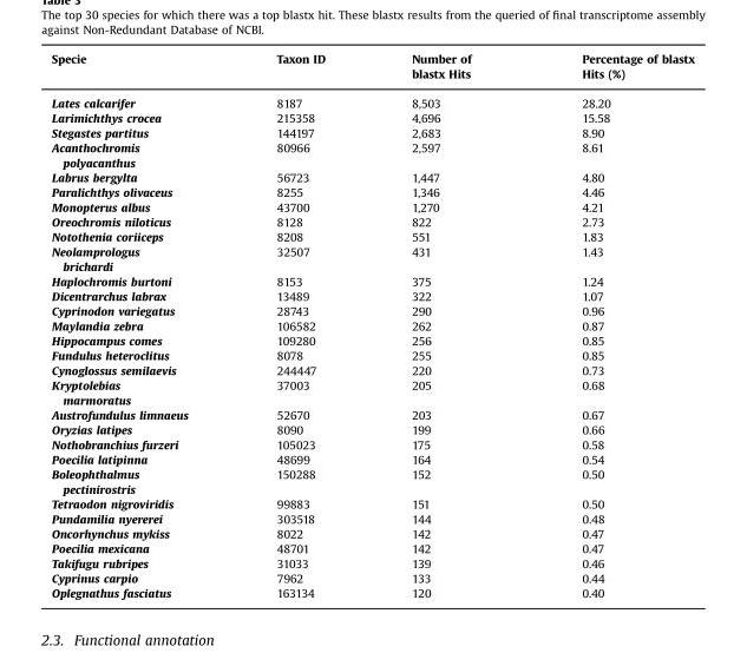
<table><thead><tr><td>Specie</td><td>Taxon ID</td><td>Number of blastx Hits</td><td>Percentage of blastx Hits (%)</td></tr></thead><tbody><tr><td>Lates calcarifer</td><td>8187</td><td>8,503</td><td>28.20</td></tr><tr><td>Larimichthys crocea</td><td>215358</td><td>4,696</td><td>15.58</td></tr><tr><td>Stegastes partitus</td><td>144197</td><td>2,683</td><td>8.90</td></tr><tr><td>Acanthochromis polyacanthus</td><td>80966</td><td>2,597</td><td>8.61</td></tr><tr><td>Labrus bergylta</td><td>56723</td><td>1,447</td><td>4.80</td></tr><tr><td>Paralichthys olivaceus</td><td>8255</td><td>1,346</td><td>4.46</td></tr><tr><td>Monopterus albus</td><td>43700</td><td>1,270</td><td>4.21</td></tr><tr><td>Oreochromis niloticus</td><td>8128</td><td>822</td><td>2.73</td></tr><tr><td>Notothenia coriiceps</td><td>8208</td><td>551</td><td>1.83</td></tr><tr><td>Neolamprologus brichardi</td><td>32507</td><td>431</td><td>1.43</td></tr><tr><td>Haplochromis burtoni</td><td>8153</td><td>375</td><td>1.24</td></tr><tr><td>Dicentrarchus labrax</td><td>13489</td><td>322</td><td>1.07</td></tr><tr><td>Cyprinodon variegatus</td><td>28743</td><td>290</td><td>0.96</td></tr><tr><td>Maylandia zebra</td><td>106582</td><td>262</td><td>0.87</td></tr><tr><td>Hippocampus comes</td><td>109280</td><td>256</td><td>0.85</td></tr><tr><td>Fundulus heteroclitus</td><td>8078</td><td>255</td><td>0.85</td></tr><tr><td>Cynoglossus semilaevis</td><td>244447</td><td>220</td><td>0.73</td></tr><tr><td>Kryptolebias marmoratus</td><td>37003</td><td>205</td><td>0.68</td></tr><tr><td>Austrofundulus limnaeus</td><td>52670</td><td>203</td><td>0.67</td></tr><tr><td>Oryzias latipes</td><td>8090</td><td>199</td><td>0.66</td></tr><tr><td>Nothobranchius furzeri</td><td>105023</td><td>175</td><td>0.58</td></tr><tr><td>Poecilia latipinna</td><td>48699</td><td>164</td><td>0.54</td></tr><tr><td>Boleophthalmus pectinirostris</td><td>150288</td><td>152</td><td>0.50</td></tr><tr><td>Tetraodon nigroviridis</td><td>99883</td><td>151</td><td>0.50</td></tr><tr><td>Pundamilia nyererei</td><td>303518</td><td>144</td><td>0.48</td></tr><tr><td>Oncorhynchus mykiss</td><td>8022</td><td>142</td><td>0.47</td></tr><tr><td>Poecilia mexicana</td><td>48701</td><td>142</td><td>0.47</td></tr><tr><td>Takifugu rubripes</td><td>31033</td><td>139</td><td>0.46</td></tr><tr><td>Cyprinus carpio</td><td>7962</td><td>133</td><td>0.44</td></tr><tr><td>Oplegnathus fasciatus</td><td>163134</td><td>120</td><td>0.40</td></tr></tbody></table>